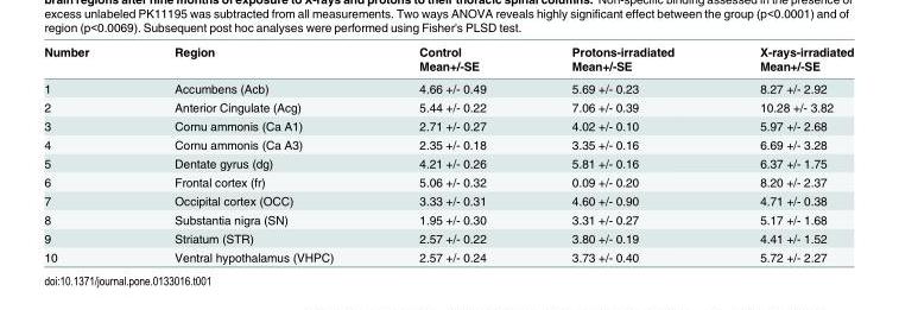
<table><thead><tr><td rowspan="2">Number</td><td rowspan="2">Region</td><td rowspan="2">Control Mean+/-SE</td><td rowspan="2">Protons-irradiated Mean+/-SE</td><td rowspan="2">X-rays-irradiated Mean+/-SE</td></tr><tr></tr></thead><tbody><tr><td>1</td><td>Accumbens (Acb)</td><td>4.66 +/- 0.49</td><td>5.69 +/- 0.23</td><td>8.27 +/- 2.92</td></tr><tr><td>2</td><td>Anterior Cingulate (Acg)</td><td>5.44 +/- 0.22</td><td>7.06 +/- 0.39</td><td>10.28 +/- 3.82</td></tr><tr><td>3</td><td>Cornu ammonis (Ca A1)</td><td>2.71 +/- 0.27</td><td>4.02 +/- 0.10</td><td>5.97 +/- 2.68</td></tr><tr><td>4</td><td>Cornu ammonis (Ca A3)</td><td>2.35 +/- 0.18</td><td>3.35 +/- 0.16</td><td>6.69 +/- 3.28</td></tr><tr><td>5</td><td>Dentate gyrus (dg)</td><td>4.21 +/- 0.26</td><td>5.81 +/- 0.16</td><td>6.37 +/- 1.75</td></tr><tr><td>6</td><td>Frontal cortex (fr)</td><td>5.06 +/- 0.32</td><td>0.09 +/- 0.20</td><td>8.20 +/- 2.37</td></tr><tr><td>7</td><td>Occipital cortex (OCC)</td><td>3.33 +/- 0.31</td><td>4.60 +/- 0.90</td><td>4.71 +/- 0.38</td></tr><tr><td>8</td><td>Substantia nigra (SN)</td><td>1.95 +/- 0.30</td><td>3.31 +/- 0.27</td><td>5.17 +/- 1.68</td></tr><tr><td>9</td><td>Striatum (STR)</td><td>2.57 +/- 0.22</td><td>3.80 +/- 0.19</td><td>4.41 +/- 1.52</td></tr><tr><td>10</td><td>Ventral hypothalamus (VHPC)</td><td>2.57 +/- 0.24</td><td>3.73 +/- 0.40</td><td>5.72 +/- 2.27</td></tr></tbody></table>